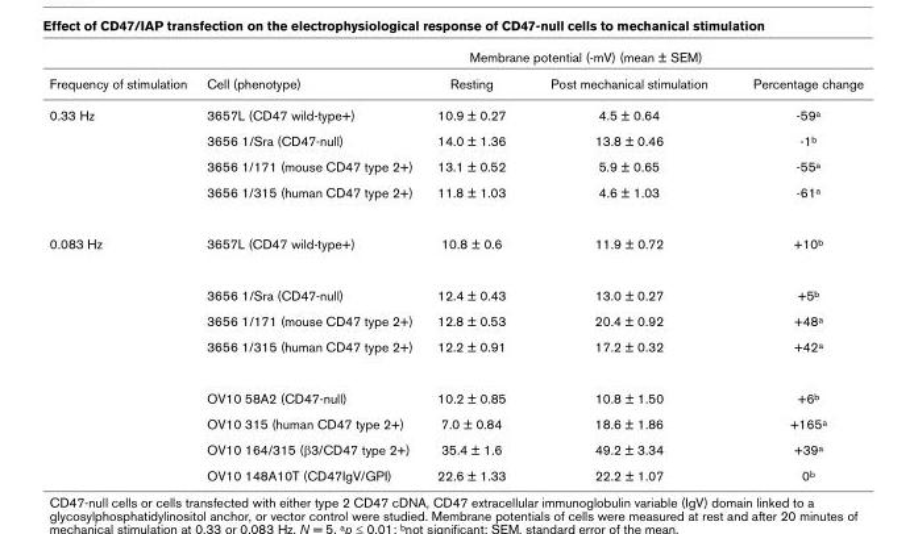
<table><thead><tr><td rowspan="2">Frequency of stimulation</td><td rowspan="2">Cell (phenotype)</td><td colspan="2">Membrane potential (-mV) (mean ± SEM)</td><td rowspan="2">Percentage change</td></tr><tr><td>Resting</td><td>Post mechanical stimulation</td></tr></thead><tbody><tr><td rowspan="4">0.33 Hz</td><td>3657L (CD47 wild-type+)</td><td>10.9 ± 0.27</td><td>4.5 ± 0.64</td><td>-59<sup>a</sup></td></tr><tr><td>3656 1/Sra (CD47-null)</td><td>14.0 ± 1.36</td><td>13.8 ± 0.46</td><td>-1<sup>b</sup></td></tr><tr><td>3656 1/171 (mouse CD47 type 2+)</td><td>13.1 ± 0.52</td><td>5.9 ± 0.65</td><td>-55<sup>a</sup></td></tr><tr><td>3656 1/315 (human CD47 type 2+)</td><td>11.8 ± 1.03</td><td>4.6 ± 1.03</td><td>-61<sup>a</sup></td></tr><tr><td rowspan="8">0.083 Hz</td><td>3657L (CD47 wild-type+)</td><td>10.8 ± 0.6</td><td>11.9 ± 0.72</td><td>+10<sup>b</sup></td></tr><tr><td>3656 1/Sra (CD47-null)</td><td>12.4 ± 0.43</td><td>13.0 ± 0.27</td><td>+5<sup>b</sup></td></tr><tr><td>3656 1/171 (mouse CD47 type 2+)</td><td>12.8 ± 0.53</td><td>20.4 ± 0.92</td><td>+48<sup>a</sup></td></tr><tr><td>3656 1/315 (human CD47 type 2+)</td><td>12.2 ± 0.91</td><td>17.2 ± 0.32</td><td>+42<sup>a</sup></td></tr><tr><td>OV10 58A2 (CD47-null)</td><td>10.2 ± 0.85</td><td>10.8 ± 1.50</td><td>+6<sup>b</sup></td></tr><tr><td>OV10 315 (human CD47 type 2+)</td><td>7.0 ± 0.84</td><td>18.6 ± 1.86</td><td>+165<sup>a</sup></td></tr><tr><td>OV10 164/315 (β3/CD47 type 2+)</td><td>35.4 ± 1.6</td><td>49.2 ± 3.34</td><td>+39<sup>a</sup></td></tr><tr><td>OV10 148A10T (CD47IgV/GPI)</td><td>22.6 ± 1.33</td><td>22.2 ± 1.07</td><td>0<sup>b</sup></td></tr></tbody></table>